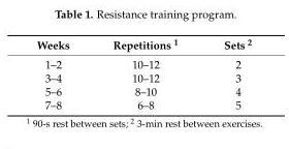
<table><thead><tr><td>Weeks</td><td>Repetitions <sup>1</sup></td><td>Sets <sup>2</sup></td></tr></thead><tbody><tr><td>1–2</td><td>10–12</td><td>2</td></tr><tr><td>3–4</td><td>10–12</td><td>3</td></tr><tr><td>5–6</td><td>8–10</td><td>4</td></tr><tr><td>7–8</td><td>6–8</td><td>5</td></tr></tbody></table>